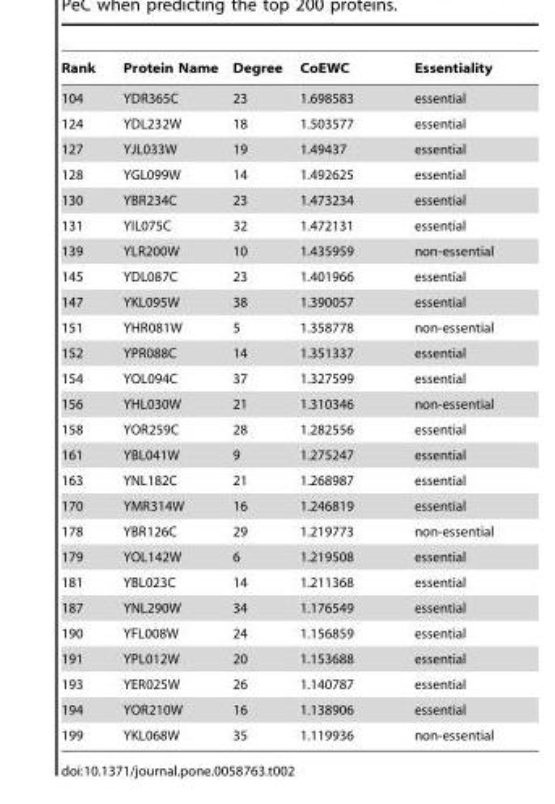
<table><thead><tr><td>Rank</td><td>Protein Name</td><td>Degree</td><td>CoEWC</td><td>Essentiality</td></tr></thead><tbody><tr><td>104</td><td>YDR365C</td><td>23</td><td>1.698583</td><td>essential</td></tr><tr><td>124</td><td>YDL232W</td><td>18</td><td>1.503577</td><td>essential</td></tr><tr><td>127</td><td>YJL033W</td><td>19</td><td>1.49437</td><td>essential</td></tr><tr><td>128</td><td>YGL099W</td><td>14</td><td>1.492625</td><td>essential</td></tr><tr><td>130</td><td>YBR234C</td><td>23</td><td>1.473234</td><td>essential</td></tr><tr><td>131</td><td>YIL075C</td><td>32</td><td>1.472131</td><td>essential</td></tr><tr><td>139</td><td>YLR200W</td><td>10</td><td>1.435959</td><td>non-essential</td></tr><tr><td>145</td><td>YDL087C</td><td>23</td><td>1.401966</td><td>essential</td></tr><tr><td>147</td><td>YKL095W</td><td>38</td><td>1.390057</td><td>essential</td></tr><tr><td>151</td><td>YHR081W</td><td>5</td><td>1.358778</td><td>non-essential</td></tr><tr><td>152</td><td>YPR088C</td><td>14</td><td>1.351337</td><td>essential</td></tr><tr><td>154</td><td>YOL094C</td><td>37</td><td>1.327599</td><td>essential</td></tr><tr><td>156</td><td>YHL030W</td><td>21</td><td>1.310346</td><td>non-essential</td></tr><tr><td>158</td><td>YOR259C</td><td>28</td><td>1.282556</td><td>essential</td></tr><tr><td>161</td><td>YBL041W</td><td>9</td><td>1.275247</td><td>essential</td></tr><tr><td>163</td><td>YNL182C</td><td>21</td><td>1.268987</td><td>essential</td></tr><tr><td>170</td><td>YMR314W</td><td>16</td><td>1.246819</td><td>essential</td></tr><tr><td>178</td><td>YBR126C</td><td>29</td><td>1.219773</td><td>non-essential</td></tr><tr><td>179</td><td>YOL142W</td><td>6</td><td>1.219508</td><td>essential</td></tr><tr><td>181</td><td>YBL023C</td><td>14</td><td>1.211368</td><td>essential</td></tr><tr><td>187</td><td>YNL290W</td><td>34</td><td>1.176549</td><td>essential</td></tr><tr><td>190</td><td>YFL008W</td><td>24</td><td>1.156859</td><td>essential</td></tr><tr><td>191</td><td>YPL012W</td><td>20</td><td>1.153688</td><td>essential</td></tr><tr><td>193</td><td>YER025W</td><td>26</td><td>1.140787</td><td>essential</td></tr><tr><td>194</td><td>YOR210W</td><td>16</td><td>1.138906</td><td>essential</td></tr><tr><td>199</td><td>YKL068W</td><td>35</td><td>1.119936</td><td>non-essential</td></tr></tbody></table>